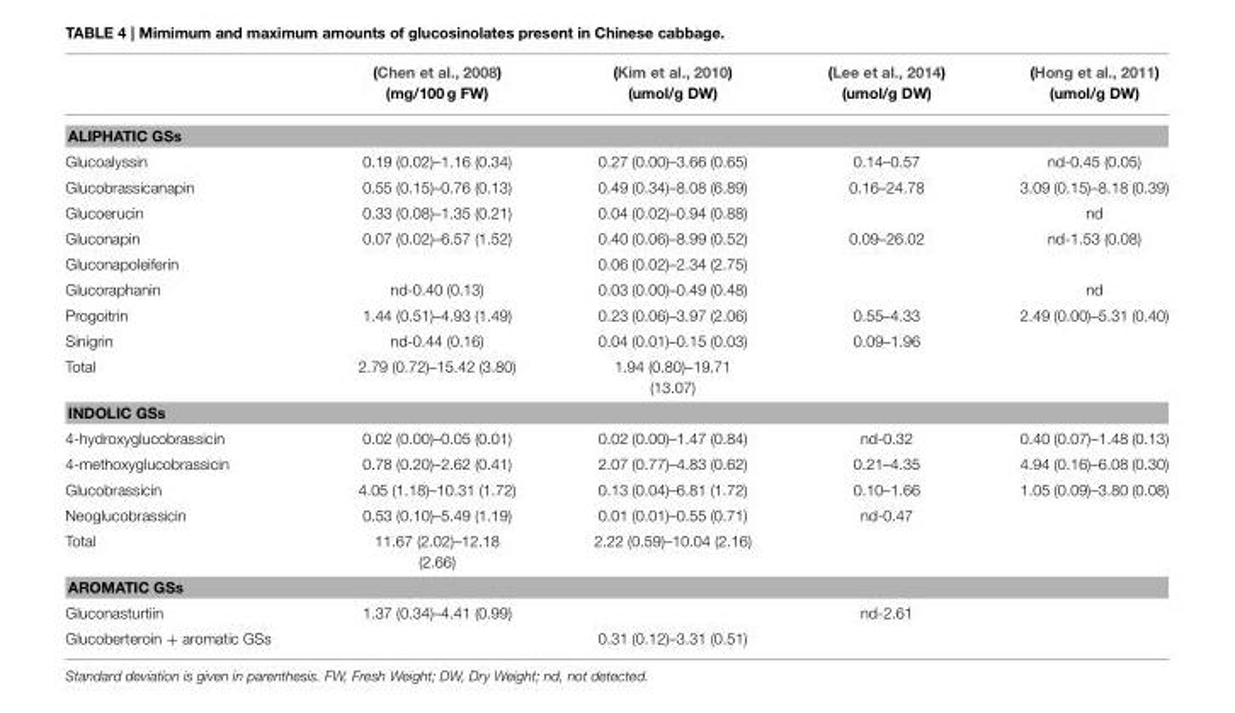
<table><thead><tr><td></td><td>(Chen et al., 2008) (mg/100 g FW)</td><td>(Kim et al., 2010) (umol/g DW)</td><td>(Lee et al., 2014) (umol/g DW)</td><td>(Hong et al., 2011) (umol/g DW)</td></tr></thead><tbody><tr><td colspan="5">ALIPHATIC GSs</td></tr><tr><td>Glucoalyssin</td><td>0.19 (0.02)–1.16 (0.34)</td><td>0.27 (0.00)–3.66 (0.65)</td><td>0.14–0.57</td><td>nd-0.45 (0.05)</td></tr><tr><td>Glucobrassicanapin</td><td>0.55 (0.15)–0.76 (0.13)</td><td>0.49 (0.34)–8.08 (6.89)</td><td>0.16–24.78</td><td>3.09 (0.15)–8.18 (0.39)</td></tr><tr><td>Glucoerucin</td><td>0.33 (0.08)–1.35 (0.21)</td><td>0.04 (0.02)–0.94 (0.88)</td><td></td><td>nd</td></tr><tr><td>Gluconapin</td><td>0.07 (0.02)–6.57 (1.52)</td><td>0.40 (0.06)–8.99 (0.52)</td><td>0.09–26.02</td><td>nd-1.53 (0.08)</td></tr><tr><td>Gluconapoleiferin</td><td></td><td>0.06 (0.02)–2.34 (2.75)</td><td></td><td></td></tr><tr><td>Glucoraphanin</td><td>nd-0.40 (0.13)</td><td>0.03 (0.00)–0.49 (0.48)</td><td></td><td>nd</td></tr><tr><td>Progoitrin</td><td>1.44 (0.51)–4.93 (1.49)</td><td>0.23 (0.06)–3.97 (2.06)</td><td>0.55–4.33</td><td>2.49 (0.00)–5.31 (0.40)</td></tr><tr><td>Sinigrin</td><td>nd-0.44 (0.16)</td><td>0.04 (0.01)–0.15 (0.03)</td><td>0.09–1.96</td><td></td></tr><tr><td>Total</td><td>2.79 (0.72)–15.42 (3.80)</td><td>1.94 (0.80)–19.71 (13.07)</td><td></td><td></td></tr><tr><td colspan="5">INDOLIC GSs</td></tr><tr><td>4-hydroxyglucobrassicin</td><td>0.02 (0.00)–0.05 (0.01)</td><td>0.02 (0.00)–1.47 (0.84)</td><td>nd-0.32</td><td>0.40 (0.07)–1.48 (0.13)</td></tr><tr><td>4-methoxyglucobrassicin</td><td>0.78 (0.20)–2.62 (0.41)</td><td>2.07 (0.77)–4.83 (0.62)</td><td>0.21–4.35</td><td>4.94 (0.16)–6.08 (0.30)</td></tr><tr><td>Glucobrassicin</td><td>4.05 (1.18)–10.31 (1.72)</td><td>0.13 (0.04)–6.81 (1.72)</td><td>0.10–1.66</td><td>1.05 (0.09)–3.80 (0.08)</td></tr><tr><td>Neoglucobrassicin</td><td>0.53 (0.10)–5.49 (1.19)</td><td>0.01 (0.01)–0.55 (0.71)</td><td>nd-0.47</td><td></td></tr><tr><td>Total</td><td>11.67 (2.02)–12.18 (2.66)</td><td>2.22 (0.59)–10.04 (2.16)</td><td></td><td></td></tr><tr><td colspan="5">AROMATIC GSs</td></tr><tr><td>Gluconasturtiin</td><td>1.37 (0.34)–4.41 (0.99)</td><td></td><td>nd-2.61</td><td></td></tr><tr><td>Glucoberteroin + aromatic GSs</td><td></td><td>0.31 (0.12)–3.31 (0.51)</td><td></td><td></td></tr></tbody></table>